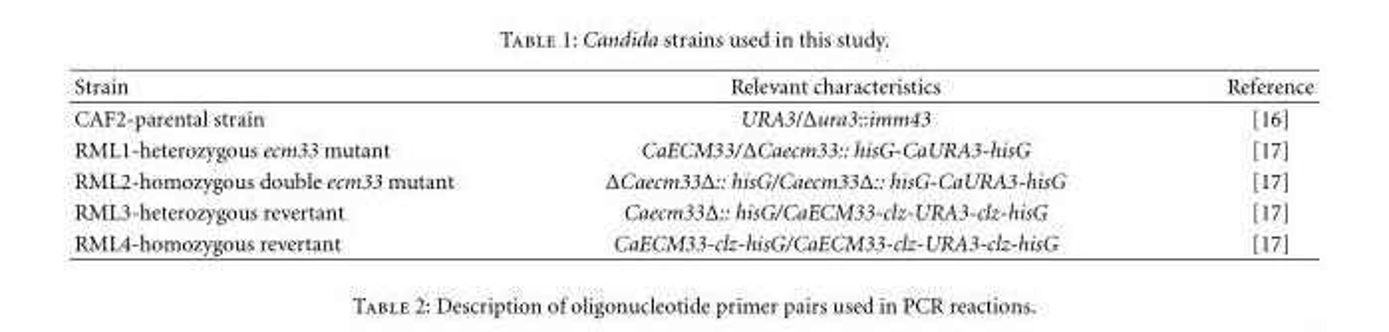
<table><thead><tr><td>Strain</td><td>Relevant characteristics</td><td>Reference</td></tr></thead><tbody><tr><td>CAF2-parental strain</td><td>URA3/Δura3::imm43</td><td>[16]</td></tr><tr><td>RML1-heterozygous ecm33 mutant</td><td>CaECM33/ΔCaecm33:: hisG-CaURA3-hisG</td><td>[17]</td></tr><tr><td>RML2-homozygous double ecm33 mutant</td><td>ΔCaecm33Δ:: hisG/Caecm33Δ:: hisG-CaURA3-hisG</td><td>[17]</td></tr><tr><td>RML3-heterozygous revertant</td><td>Caecm33Δ:: hisG/CaECM33-clz-URA3-clz-hisG</td><td>[17]</td></tr><tr><td>RML4-homozygous revertant</td><td>CaECM33-clz-hisG/CaECM33-clz-URA3-clz-hisG</td><td>[17]</td></tr></tbody></table>